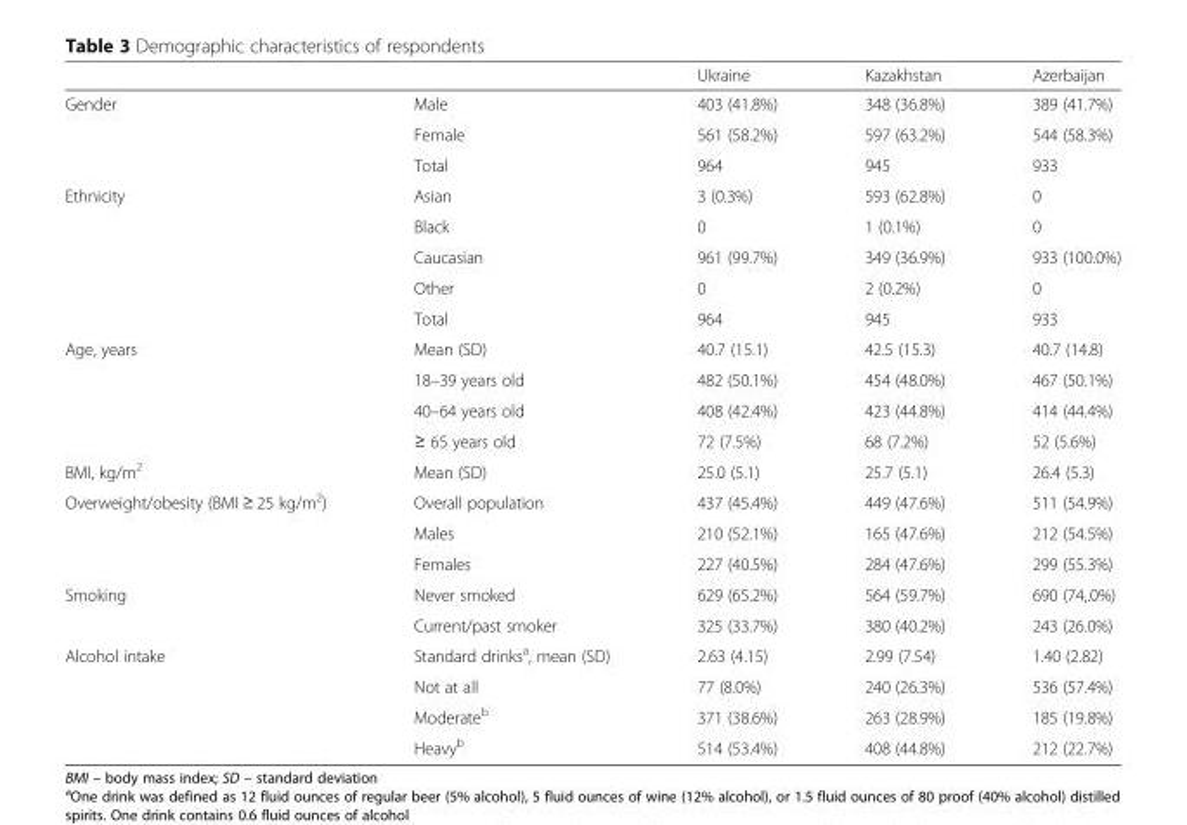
<table><thead><tr><td></td><td></td><td>Ukraine</td><td>Kazakhstan</td><td>Azerbaijan</td></tr></thead><tbody><tr><td rowspan="3">Gender</td><td>Male</td><td>403 (41.8%)</td><td>348 (36.8%)</td><td>389 (41.7%)</td></tr><tr><td>Female</td><td>561 (58.2%)</td><td>597 (63.2%)</td><td>544 (58.3%)</td></tr><tr><td>Total</td><td>964</td><td>945</td><td>933</td></tr><tr><td rowspan="5">Ethnicity</td><td>Asian</td><td>3 (0.3%)</td><td>593 (62.8%)</td><td>0</td></tr><tr><td>Black</td><td>0</td><td>1 (0.1%)</td><td>0</td></tr><tr><td>Caucasian</td><td>961 (99.7%)</td><td>349 (36.9%)</td><td>933 (100.0%)</td></tr><tr><td>Other</td><td>0</td><td>2 (0.2%)</td><td>0</td></tr><tr><td>Total</td><td>964</td><td>945</td><td>933</td></tr><tr><td rowspan="4">Age, years</td><td>Mean (SD)</td><td>40.7 (15.1)</td><td>42.5 (15.3)</td><td>40.7 (14.8)</td></tr><tr><td>18–39 years old</td><td>482 (50.1%)</td><td>454 (48.0%)</td><td>467 (50.1%)</td></tr><tr><td>40–64 years old</td><td>408 (42.4%)</td><td>423 (44.8%)</td><td>414 (44.4%)</td></tr><tr><td>≥ 65 years old</td><td>72 (7.5%)</td><td>68 (7.2%)</td><td>52 (5.6%)</td></tr><tr><td>BMI, kg/m<sup>2</sup></td><td>Mean (SD)</td><td>25.0 (5.1)</td><td>25.7 (5.1)</td><td>26.4 (5.3)</td></tr><tr><td rowspan="3">Overweight/obesity (BMI ≥ 25 kg/m<sup>2</sup>)</td><td>Overall population</td><td>437 (45.4%)</td><td>449 (47.6%)</td><td>511 (54.9%)</td></tr><tr><td>Males</td><td>210 (52.1%)</td><td>165 (47.6%)</td><td>212 (54.5%)</td></tr><tr><td>Females</td><td>227 (40.5%)</td><td>284 (47.6%)</td><td>299 (55.3%)</td></tr><tr><td rowspan="2">Smoking</td><td>Never smoked</td><td>629 (65.2%)</td><td>564 (59.7%)</td><td>690 (74,.0%)</td></tr><tr><td>Current/past smoker</td><td>325 (33.7%)</td><td>380 (40.2%)</td><td>243 (26.0%)</td></tr><tr><td rowspan="4">Alcohol intake</td><td>Standard drinks<sup>a</sup>, mean (SD)</td><td>2.63 (4.15)</td><td>2.99 (7.54)</td><td>1.40 (2.82)</td></tr><tr><td>Not at all</td><td>77 (8.0%)</td><td>240 (26.3%)</td><td>536 (57.4%)</td></tr><tr><td>Moderate<sup>b</sup></td><td>371 (38.6%)</td><td>263 (28.9%)</td><td>185 (19.8%)</td></tr><tr><td>Heavy<sup>b</sup></td><td>514 (53.4%)</td><td>408 (44.8%)</td><td>212 (22.7%)</td></tr></tbody></table>